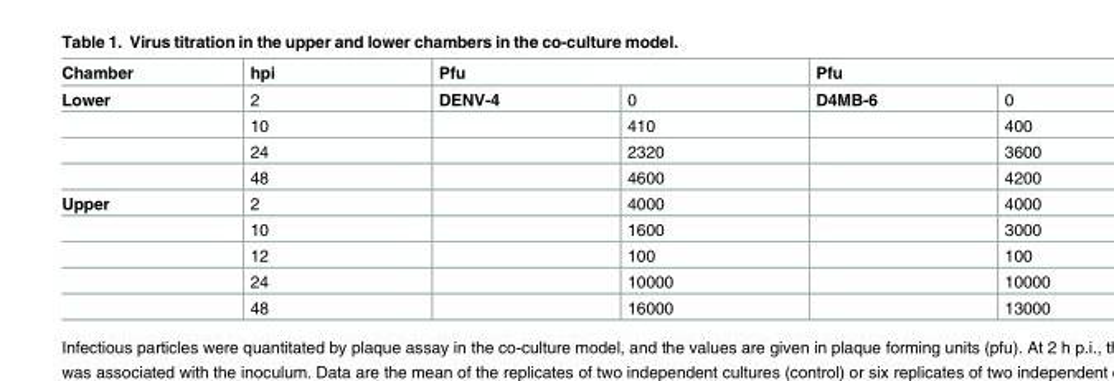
<table><thead><tr><td rowspan="2">Chamber Lower</td><td rowspan="2">hpi 2</td><td colspan="2">Pfu</td><td colspan="2">Pfu</td></tr><tr><td>DENV-4</td><td>0</td><td>D4MB-6</td><td>0</td></tr></thead><tbody><tr><td></td><td>10</td><td></td><td>410</td><td></td><td>400</td></tr><tr><td></td><td>24</td><td></td><td>2320</td><td></td><td>3600</td></tr><tr><td></td><td>48</td><td></td><td>4600</td><td></td><td>4200</td></tr><tr><td rowspan="5">Upper</td><td>2</td><td></td><td>4000</td><td></td><td>4000</td></tr><tr><td>10</td><td></td><td>1600</td><td></td><td>3000</td></tr><tr><td>12</td><td></td><td>100</td><td></td><td>100</td></tr><tr><td>24</td><td></td><td>10000</td><td></td><td>10000</td></tr><tr><td>48</td><td></td><td>16000</td><td></td><td>13000</td></tr></tbody></table>